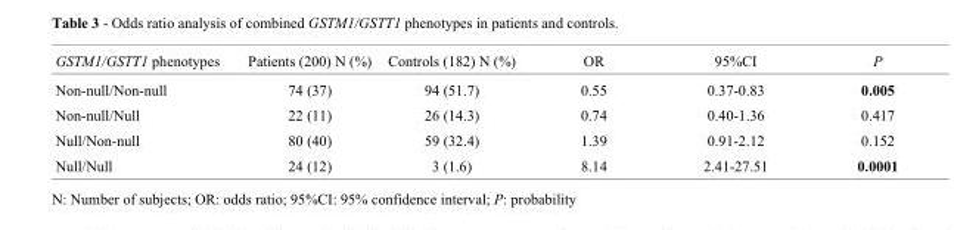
<table><thead><tr><td>GSTM1/GSTT1 phenotypes</td><td>Patients (200) N (%)</td><td>Controls (182) N (%)</td><td>OR</td><td>95%CI</td><td>P</td></tr></thead><tbody><tr><td>Non-null/Non-null</td><td>74 (37)</td><td>94 (51.7)</td><td>0.55</td><td>0.37-0.83</td><td>0.005</td></tr><tr><td>Non-null/Null</td><td>22 (11)</td><td>26 (14.3)</td><td>0.74</td><td>0.40-1.36</td><td>0.417</td></tr><tr><td>Null/Non-null</td><td>80 (40)</td><td>59 (32.4)</td><td>1.39</td><td>0.91-2.12</td><td>0.152</td></tr><tr><td>Null/Null</td><td>24 (12)</td><td>3 (1.6)</td><td>8.14</td><td>2.41-27.51</td><td>0.0001</td></tr></tbody></table>